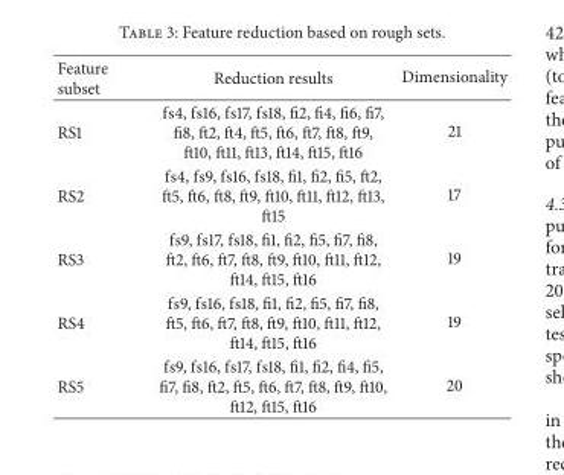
<table><thead><tr><td>Feature subset</td><td>Reduction results</td><td>Dimensionality</td></tr></thead><tbody><tr><td>RS1</td><td>fs4, fs16, fs17, fs18, fi2, fi4, fi6, fi7, fi8, ft2, ft4, ft5, ft6, ft7, ft8, ft9, ft10, ft11, ft13, ft14, ft15, ft16</td><td>21</td></tr><tr><td>RS2</td><td>fs4, fs9, fs16, fs18, fi1, fi2, fi5, ft2, ft5, ft6, ft8, ft9, ft10, ft11, ft12, ft13, ft15</td><td>17</td></tr><tr><td>RS3</td><td>fs9, fs17, fs18, fi1, fi2, fi5, fi7, fi8, ft2, ft6, ft7, ft8, ft9, ft10, ft11, ft12, ft14, ft15, ft16</td><td>19</td></tr><tr><td>RS4</td><td>fs9, fs16, fs18, fi1, fi2, fi5, fi7, fi8, ft5, ft6, ft7, ft8, ft9, ft10, ft11, ft12, ft14, ft15, ft16</td><td>19</td></tr><tr><td>RS5</td><td>fs9, fs16, fs17, fs18, fi1, fi2, fi4, fi5, fi7, fi8, ft2, ft5, ft6, ft7, ft8, ft9, ft10, ft12, ft15, ft16</td><td>20</td></tr></tbody></table>